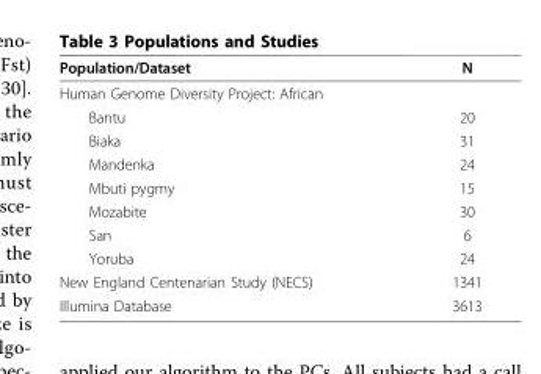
<table><thead><tr><td>Population/Dataset</td><td>N</td></tr></thead><tbody><tr><td colspan="2">Human Genome Diversity Project: African</td></tr><tr><td>Bantu</td><td>20</td></tr><tr><td>Biaka</td><td>31</td></tr><tr><td>Mandenka</td><td>24</td></tr><tr><td>Mbuti pygmy</td><td>15</td></tr><tr><td>Mozabite</td><td>30</td></tr><tr><td>San</td><td>6</td></tr><tr><td>Yoruba</td><td>24</td></tr><tr><td>New England Centenarian Study (NECS)</td><td>1341</td></tr><tr><td>Illumina Database</td><td>3613</td></tr></tbody></table>